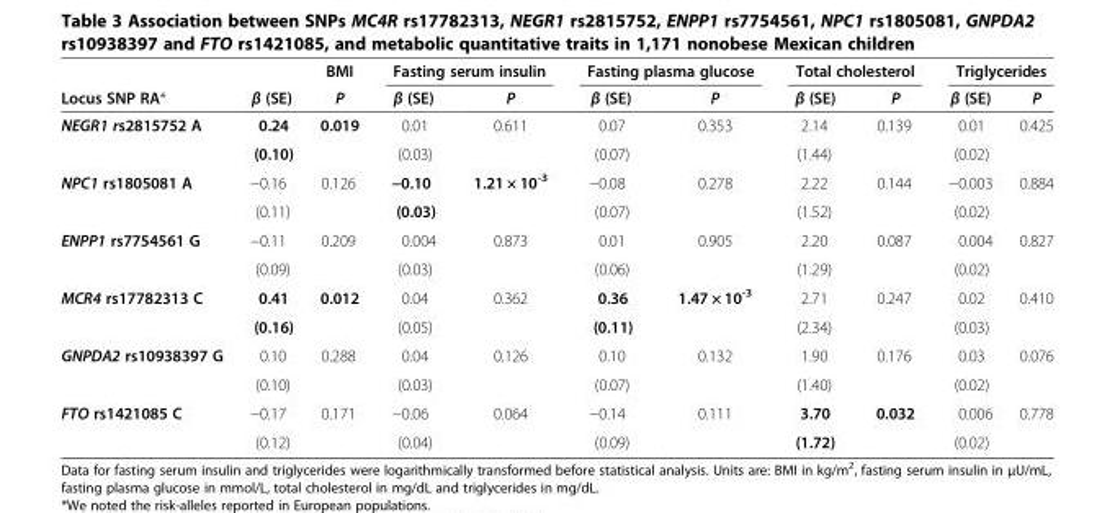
<table><thead><tr><td rowspan="2">Locus SNP RA*</td><td rowspan="2">β (SE)</td><td rowspan="2">BMI P</td><td colspan="2">Fasting serum insulin</td><td colspan="2">Fasting plasma glucose</td><td colspan="2">Total cholesterol</td><td colspan="2">Triglycerides</td></tr><tr><td>β (SE)</td><td>P</td><td>β (SE)</td><td>P</td><td>β (SE)</td><td>P</td><td>β (SE)</td><td>P</td></tr></thead><tbody><tr><td rowspan="2">NEGR1 rs2815752 A</td><td>0.24</td><td>0.019</td><td>0.01</td><td>0.611</td><td>0.07</td><td>0.353</td><td>2.14</td><td>0.139</td><td>0.01</td><td>0.425</td></tr><tr><td>(0.10)</td><td></td><td>(0.03)</td><td></td><td>(0.07)</td><td></td><td>(1.44)</td><td></td><td>(0.02)</td><td></td></tr><tr><td rowspan="2">NPC1 rs1805081 A</td><td>−0.16</td><td>0.126</td><td>−0.10</td><td>1.21 × 10<sup>-3</sup></td><td>−0.08</td><td>0.278</td><td>2.22</td><td>0.144</td><td>−0.003</td><td>0.884</td></tr><tr><td>(0.11)</td><td></td><td>(0.03)</td><td></td><td>(0.07)</td><td></td><td>(1.52)</td><td></td><td>(0.02)</td><td></td></tr><tr><td rowspan="2">ENPP1 rs7754561 G</td><td>−0.11</td><td>0.209</td><td>0.004</td><td>0.873</td><td>0.01</td><td>0.905</td><td>2.20</td><td>0.087</td><td>0.004</td><td>0.827</td></tr><tr><td>(0.09)</td><td></td><td>(0.03)</td><td></td><td>(0.06)</td><td></td><td>(1.29)</td><td></td><td>(0.02)</td><td></td></tr><tr><td rowspan="2">MCR4 rs17782313 C</td><td>0.41</td><td>0.012</td><td>0.04</td><td>0.362</td><td>0.36</td><td>1.47 × 10<sup>-3</sup></td><td>2.71</td><td>0.247</td><td>0.02</td><td>0.410</td></tr><tr><td>(0.16)</td><td></td><td>(0.05)</td><td></td><td>(0.11)</td><td></td><td>(2.34)</td><td></td><td>(0.03)</td><td></td></tr><tr><td rowspan="2">GNPDA2 rs10938397 G</td><td>0.10</td><td>0.288</td><td>0.04</td><td>0.126</td><td>0.10</td><td>0.132</td><td>1.90</td><td>0.176</td><td>0.03</td><td>0.076</td></tr><tr><td>(0.10)</td><td></td><td>(0.03)</td><td></td><td>(0.07)</td><td></td><td>(1.40)</td><td></td><td>(0.02)</td><td></td></tr><tr><td rowspan="2">FTO rs1421085 C</td><td>−0.17</td><td>0.171</td><td>−0.06</td><td>0.064</td><td>−0.14</td><td>0.111</td><td>3.70</td><td>0.032</td><td>0.006</td><td>0.778</td></tr><tr><td>(0.12)</td><td></td><td>(0.04)</td><td></td><td>(0.09)</td><td></td><td>(1.72)</td><td></td><td>(0.02)</td><td></td></tr></tbody></table>